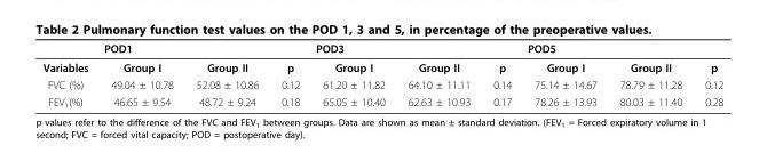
<table><thead><tr><td rowspan="2">Variables</td><td colspan="3">POD1</td><td colspan="3">POD3</td><td colspan="3">POD5</td></tr><tr><td>Group I</td><td>Group II</td><td>p</td><td>Group I</td><td>Group II</td><td>p</td><td>Group I</td><td>Group II</td><td>p</td></tr></thead><tbody><tr><td>FVC (%)</td><td>49.04 ± 10.78</td><td>52.08 ± 10.86</td><td>0.12</td><td>61.20 ± 11.82</td><td>64.10 ± 11.11</td><td>0.14</td><td>75.14 ± 14.67</td><td>78.79 ± 11.28</td><td>0.12</td></tr><tr><td>FEV<sub>1</sub>(%)</td><td>46.65 ± 9.54</td><td>48.72 ± 9.24</td><td>0.18</td><td>65.05 ± 10.40</td><td>62.63 ± 10.93</td><td>0.17</td><td>78.26 ± 13.93</td><td>80.03 ± 11.40</td><td>0.28</td></tr></tbody></table>